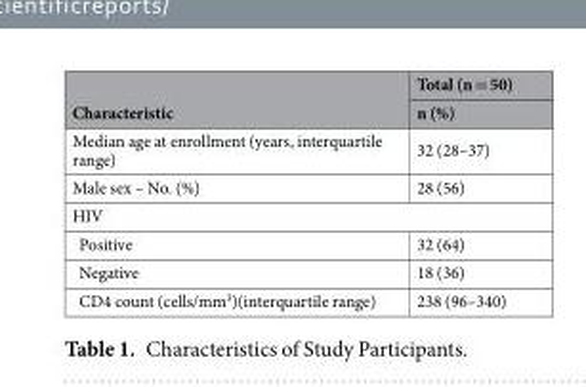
<table><thead><tr><td rowspan="2">Characteristic</td><td rowspan="2">Total (n = 50) n (%)</td></tr><tr></tr></thead><tbody><tr><td>Median age at enrollment (years, interquartile range)</td><td>32 (28–37)</td></tr><tr><td>Male sex – No. (%)</td><td>28 (56)</td></tr><tr><td colspan="2">HIV</td></tr><tr><td>Positive</td><td>32 (64)</td></tr><tr><td>Negative</td><td>18 (36)</td></tr><tr><td>CD4 count (cells/mm<sup>3</sup>)(interquartile range)</td><td>238 (96–340)</td></tr></tbody></table>